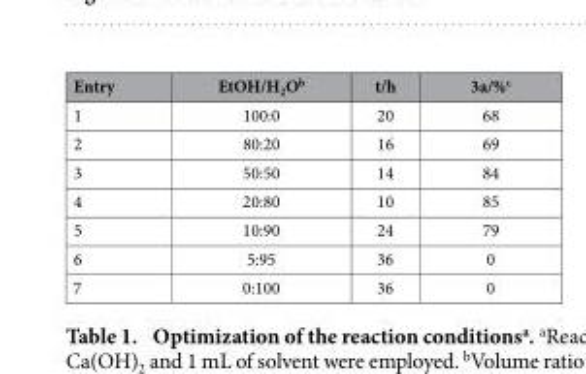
<table><thead><tr><td>Entry</td><td>EtOH/H<sub>2</sub>O<sup>b</sup></td><td>t/h</td><td>3a/%<sup>c</sup></td></tr></thead><tbody><tr><td>1</td><td>100:0</td><td>20</td><td>68</td></tr><tr><td>2</td><td>80:20</td><td>16</td><td>69</td></tr><tr><td>3</td><td>50:50</td><td>14</td><td>84</td></tr><tr><td>4</td><td>20:80</td><td>10</td><td>85</td></tr><tr><td>5</td><td>10:90</td><td>24</td><td>79</td></tr><tr><td>6</td><td>5:95</td><td>36</td><td>0</td></tr><tr><td>7</td><td>0:100</td><td>36</td><td>0</td></tr></tbody></table>